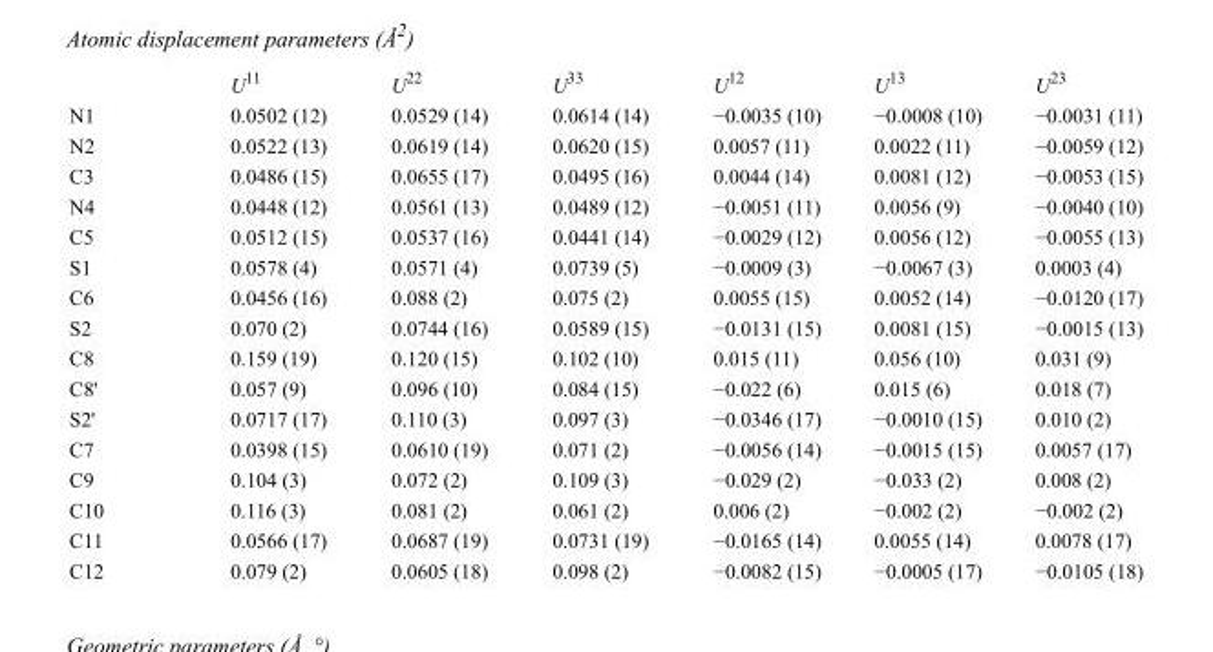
<table><thead><tr><td></td><td>U<sup>11</sup></td><td>U<sup>22</sup></td><td>U<sup>33</sup></td><td>U<sup>12</sup></td><td>U<sup>13</sup></td><td>U<sup>23</sup></td></tr></thead><tbody><tr><td>N1</td><td>0.0502 (12)</td><td>0.0529 (14)</td><td>0.0614 (14)</td><td>−0.0035 (10)</td><td>−0.0008 (10)</td><td>−0.0031 (11)</td></tr><tr><td>N2</td><td>0.0522 (13)</td><td>0.0619 (14)</td><td>0.0620 (15)</td><td>0.0057 (11)</td><td>0.0022 (11)</td><td>−0.0059 (12)</td></tr><tr><td>C3</td><td>0.0486 (15)</td><td>0.0655 (17)</td><td>0.0495 (16)</td><td>0.0044 (14)</td><td>0.0081 (12)</td><td>−0.0053 (15)</td></tr><tr><td>N4</td><td>0.0448 (12)</td><td>0.0561 (13)</td><td>0.0489 (12)</td><td>−0.0051 (11)</td><td>0.0056 (9)</td><td>−0.0040 (10)</td></tr><tr><td>C5</td><td>0.0512 (15)</td><td>0.0537 (16)</td><td>0.0441 (14)</td><td>−0.0029 (12)</td><td>0.0056 (12)</td><td>−0.0055 (13)</td></tr><tr><td>S1</td><td>0.0578 (4)</td><td>0.0571 (4)</td><td>0.0739 (5)</td><td>−0.0009 (3)</td><td>−0.0067 (3)</td><td>0.0003 (4)</td></tr><tr><td>C6</td><td>0.0456 (16)</td><td>0.088 (2)</td><td>0.075 (2)</td><td>0.0055 (15)</td><td>0.0052 (14)</td><td>−0.0120 (17)</td></tr><tr><td>S2</td><td>0.070 (2)</td><td>0.0744 (16)</td><td>0.0589 (15)</td><td>−0.0131 (15)</td><td>0.0081 (15)</td><td>−0.0015 (13)</td></tr><tr><td>C8</td><td>0.159 (19)</td><td>0.120 (15)</td><td>0.102 (10)</td><td>0.015 (11)</td><td>0.056 (10)</td><td>0.031 (9)</td></tr><tr><td>C8&#x27;</td><td>0.057 (9)</td><td>0.096 (10)</td><td>0.084 (15)</td><td>−0.022 (6)</td><td>0.015 (6)</td><td>0.018 (7)</td></tr><tr><td>S2&#x27;</td><td>0.0717 (17)</td><td>0.110 (3)</td><td>0.097 (3)</td><td>−0.0346 (17)</td><td>−0.0010 (15)</td><td>0.010 (2)</td></tr><tr><td>C7</td><td>0.0398 (15)</td><td>0.0610 (19)</td><td>0.071 (2)</td><td>−0.0056 (14)</td><td>−0.0015 (15)</td><td>0.0057 (17)</td></tr><tr><td>C9</td><td>0.104 (3)</td><td>0.072 (2)</td><td>0.109 (3)</td><td>−0.029 (2)</td><td>−0.033 (2)</td><td>0.008 (2)</td></tr><tr><td>C10</td><td>0.116 (3)</td><td>0.081 (2)</td><td>0.061 (2)</td><td>0.006 (2)</td><td>−0.002 (2)</td><td>−0.002 (2)</td></tr><tr><td>C11</td><td>0.0566 (17)</td><td>0.0687 (19)</td><td>0.0731 (19)</td><td>−0.0165 (14)</td><td>0.0055 (14)</td><td>0.0078 (17)</td></tr><tr><td>C12</td><td>0.079 (2)</td><td>0.0605 (18)</td><td>0.098 (2)</td><td>−0.0082 (15)</td><td>−0.0005 (17)</td><td>−0.0105 (18)</td></tr></tbody></table>